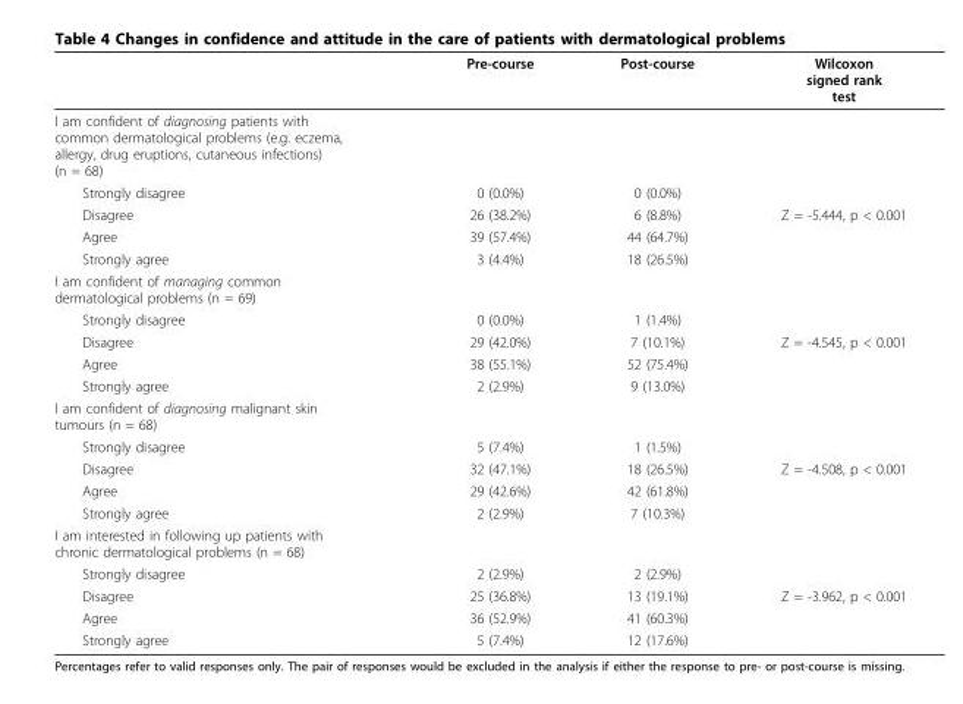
<table><thead><tr><td></td><td>Pre-course</td><td>Post-course</td><td>Wilcoxon signed rank test</td></tr></thead><tbody><tr><td colspan="4">I am confident of diagnosing patients with common dermatological problems (e.g. eczema, allergy, drug eruptions, cutaneous infections) (n = 68)</td></tr><tr><td>Strongly disagree</td><td>0 (0.0%)</td><td>0 (0.0%)</td><td></td></tr><tr><td>Disagree</td><td>26 (38.2%)</td><td>6 (8.8%)</td><td>Z = -5.444, p &lt; 0.001</td></tr><tr><td>Agree</td><td>39 (57.4%)</td><td>44 (64.7%)</td><td></td></tr><tr><td>Strongly agree</td><td>3 (4.4%)</td><td>18 (26.5%)</td><td></td></tr><tr><td colspan="4">I am confident of managing common dermatological problems (n = 69)</td></tr><tr><td>Strongly disagree</td><td>0 (0.0%)</td><td>1 (1.4%)</td><td></td></tr><tr><td>Disagree</td><td>29 (42.0%)</td><td>7 (10.1%)</td><td>Z = -4.545, p &lt; 0.001</td></tr><tr><td>Agree</td><td>38 (55.1%)</td><td>52 (75.4%)</td><td></td></tr><tr><td>Strongly agree</td><td>2 (2.9%)</td><td>9 (13.0%)</td><td></td></tr><tr><td colspan="4">I am confident of diagnosing malignant skin tumours (n = 68)</td></tr><tr><td>Strongly disagree</td><td>5 (7.4%)</td><td>1 (1.5%)</td><td></td></tr><tr><td>Disagree</td><td>32 (47.1%)</td><td>18 (26.5%)</td><td>Z = -4.508, p &lt; 0.001</td></tr><tr><td>Agree</td><td>29 (42.6%)</td><td>42 (61.8%)</td><td></td></tr><tr><td>Strongly agree</td><td>2 (2.9%)</td><td>7 (10.3%)</td><td></td></tr><tr><td colspan="4">I am interested in following up patients with chronic dermatological problems (n = 68)</td></tr><tr><td>Strongly disagree</td><td>2 (2.9%)</td><td>2 (2.9%)</td><td></td></tr><tr><td>Disagree</td><td>25 (36.8%)</td><td>13 (19.1%)</td><td>Z = -3.962, p &lt; 0.001</td></tr><tr><td>Agree</td><td>36 (52.9%)</td><td>41 (60.3%)</td><td></td></tr><tr><td>Strongly agree</td><td>5 (7.4%)</td><td>12 (17.6%)</td><td></td></tr></tbody></table>